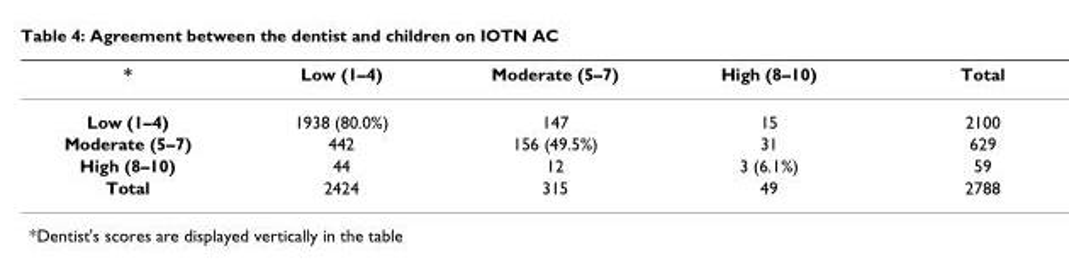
<table><thead><tr><td>*</td><td>Low (1–4)</td><td>Moderate (5–7)</td><td>High (8–10)</td><td>Total</td></tr></thead><tbody><tr><td>Low (1–4)</td><td>1938 (80.0%)</td><td>147</td><td>15</td><td>2100</td></tr><tr><td>Moderate (5–7)</td><td>442</td><td>156 (49.5%)</td><td>31</td><td>629</td></tr><tr><td>High (8–10)</td><td>44</td><td>12</td><td>3 (6.1%)</td><td>59</td></tr><tr><td>Total</td><td>2424</td><td>315</td><td>49</td><td>2788</td></tr></tbody></table>